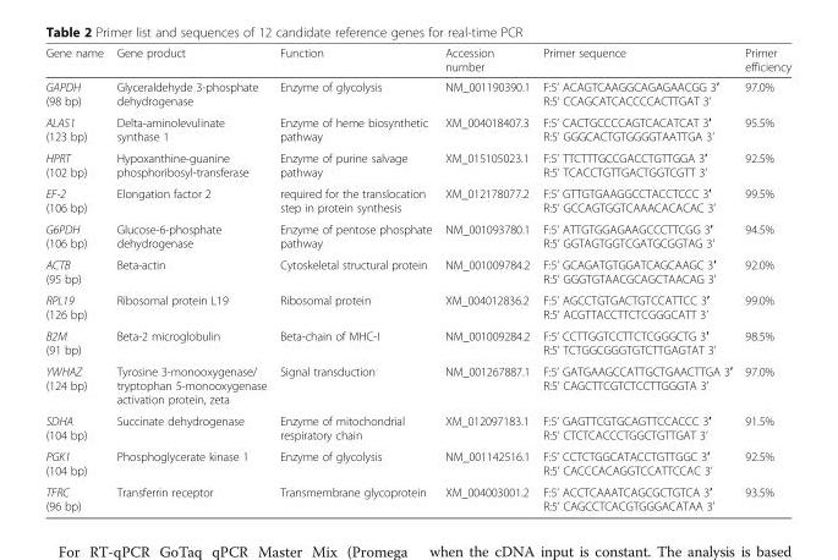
<table><thead><tr><td>Gene name</td><td>Gene product</td><td>Function</td><td>Accession number</td><td>Primer sequence</td><td>Primer efficiency</td></tr></thead><tbody><tr><td>GAPDH (98 bp)</td><td>Glyceraldehyde 3-phosphate dehydrogenase</td><td>Enzyme of glycolysis</td><td>NM_001190390.1</td><td>F:5’ ACAGTCAAGGCAGAGAACGG 3′ R:5’ CCAGCATCACCCCACTTGAT 3’</td><td>97.0%</td></tr><tr><td>ALAS1 (123 bp)</td><td>Delta-aminolevulinate synthase 1</td><td>Enzyme of heme biosynthetic pathway</td><td>XM_004018407.3</td><td>F:5’ CACTGCCCCAGTCACATCAT 3′ R:5’ GGGCACTGTGGGGTAATTGA 3’</td><td>95.5%</td></tr><tr><td>HPRT (102 bp)</td><td>Hypoxanthine-guanine phosphoribosyl-transferase</td><td>Enzyme of purine salvage pathway</td><td>XM_015105023.1</td><td>F:5’ TTCTTTGCCGACCTGTTGGA 3′ R:5’ TCACCTGTTGACTGGTCGTT 3’</td><td>92.5%</td></tr><tr><td>EF-2 (106 bp)</td><td>Elongation factor 2</td><td>required for the translocation step in protein synthesis</td><td>XM_012178077.2</td><td>F:5’ GTTGTGAAGGCCTACCTCCC 3′ R:5’ GCCAGTGGTCAAACACACAC 3’</td><td>99.5%</td></tr><tr><td>G6PDH (106 bp)</td><td>Glucose-6-phosphate dehydrogenase</td><td>Enzyme of pentose phosphate pathway</td><td>NM_001093780.1</td><td>F:5’ ATTGTGGAGAAGCCCTTCGG 3′ R:5’ GGTAGTGGTCGATGCGGTAG 3’</td><td>94.5%</td></tr><tr><td>ACTB (95 bp)</td><td>Beta-actin</td><td>Cytoskeletal structural protein</td><td>NM_001009784.2</td><td>F:5’ GCAGATGTGGATCAGCAAGC 3′ R:5’ GGGTGTAACGCAGCTAACAG 3’</td><td>92.0%</td></tr><tr><td>RPL19 (126 bp)</td><td>Ribosomal protein L19</td><td>Ribosomal protein</td><td>XM_004012836.2</td><td>F:5’ AGCCTGTGACTGTCCATTCC 3′ R:5’ ACGTTACCTTCTCGGGCATT 3’</td><td>99.0%</td></tr><tr><td>B2M (91 bp)</td><td>Beta-2 microglobulin</td><td>Beta-chain of MHC-I</td><td>NM_001009284.2</td><td>F:5’ CCTTGGTCCTTCTCGGGCTG 3′ R:5’ TCTGGCGGGTGTCTTGAGTAT 3’</td><td>98.5%</td></tr><tr><td>YWHAZ (124 bp)</td><td>Tyrosine 3-monooxygenase/ tryptophan 5-monooxygenase activation protein, zeta</td><td>Signal transduction</td><td>NM_001267887.1</td><td>F:5’ GATGAAGCCATTGCTGAACTTGA 3′ R:5’ CAGCTTCGTCTCCTTGGGTA 3’</td><td>97.0%</td></tr><tr><td>SDHA (104 bp)</td><td>Succinate dehydrogenase</td><td>Enzyme of mitochondrial respiratory chain</td><td>XM_012097183.1</td><td>F:5’ GAGTTCGTGCAGTTCCACCC 3′ R:5’ CTCTCACCCTGGCTGTTGAT 3’</td><td>91.5%</td></tr><tr><td>PGK1 (104 bp)</td><td>Phosphoglycerate kinase 1</td><td>Enzyme of glycolysis</td><td>NM_001142516.1</td><td>F:5’ CCTCTGGCATACCTGTTGGC 3′ R:5’ CACCCACAGGTCCATTCCAC 3’</td><td>92.5%</td></tr><tr><td>TFRC (96 bp)</td><td>Transferrin receptor</td><td>Transmembrane glycoprotein</td><td>XM_004003001.2</td><td>F:5’ ACCTCAAATCAGCGCTGTCA 3′ R:5’ CAGCCTCACGTGGGACATAA 3’</td><td>93.5%</td></tr></tbody></table>